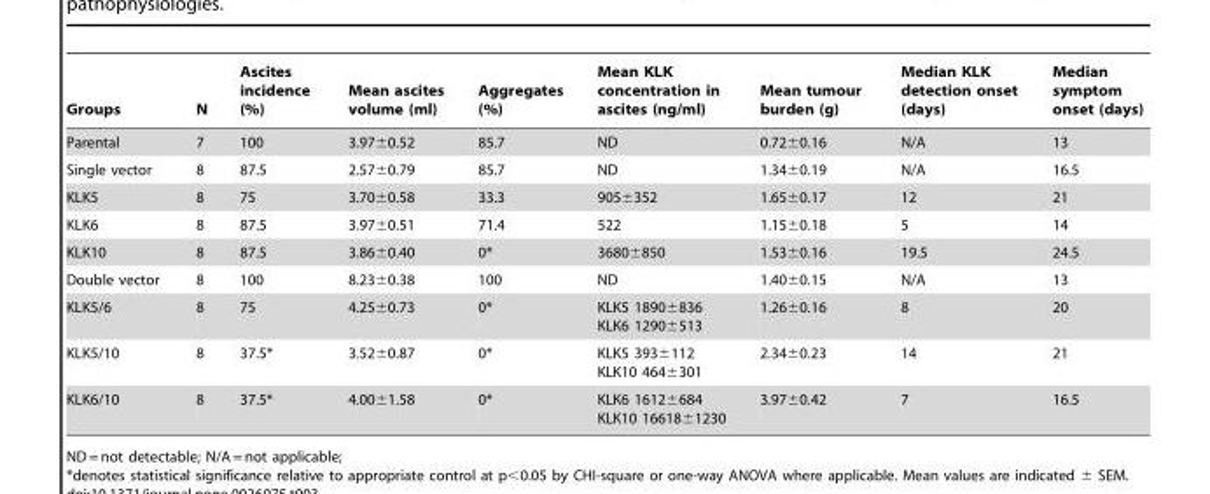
<table><thead><tr><td>Groups</td><td>N</td><td>Ascites incidence (%)</td><td>Mean ascites volume (ml)</td><td>Aggregates (%)</td><td>Mean KLK concentration in ascites (ng/ml)</td><td>Mean tumour burden (g)</td><td>Median KLK detection onset (days)</td><td>Median symptom onset (days)</td></tr></thead><tbody><tr><td>Parental</td><td>7</td><td>100</td><td>3.97±0.52</td><td>85.7</td><td>ND</td><td>0.72±0.16</td><td>N/A</td><td>13</td></tr><tr><td>Single vector</td><td>8</td><td>87.5</td><td>2.57±0.79</td><td>85.7</td><td>ND</td><td>1.34±0.19</td><td>N/A</td><td>16.5</td></tr><tr><td>KLK5</td><td>8</td><td>75</td><td>3.70±0.58</td><td>33.3</td><td>905±352</td><td>1.65±0.17</td><td>12</td><td>21</td></tr><tr><td>KLK6</td><td>8</td><td>87.5</td><td>3.97±0.51</td><td>71.4</td><td>522</td><td>1.15±0.18</td><td>5</td><td>14</td></tr><tr><td>KLK10</td><td>8</td><td>87.5</td><td>3.86±0.40</td><td>0*</td><td>3680±850</td><td>1.53±0.16</td><td>19.5</td><td>24.5</td></tr><tr><td>Double vector</td><td>8</td><td>100</td><td>8.23±0.38</td><td>100</td><td>ND</td><td>1.40±0.15</td><td>N/A</td><td>13</td></tr><tr><td>KLK5/6</td><td>8</td><td>75</td><td>4.25±0.73</td><td>0*</td><td>KLK5 1890±836 KLK6 1290±513</td><td>1.26±0.16</td><td>8</td><td>20</td></tr><tr><td>KLK5/10</td><td>8</td><td>37.5*</td><td>3.52±0.87</td><td>0*</td><td>KLK5 393±112 KLK10 464±301</td><td>2.34±0.23</td><td>14</td><td>21</td></tr><tr><td>KLK6/10</td><td>8</td><td>37.5*</td><td>4.00±1.58</td><td>0*</td><td>KLK6 1612±684 KLK10 16618±1230</td><td>3.97±0.42</td><td>7</td><td>16.5</td></tr></tbody></table>